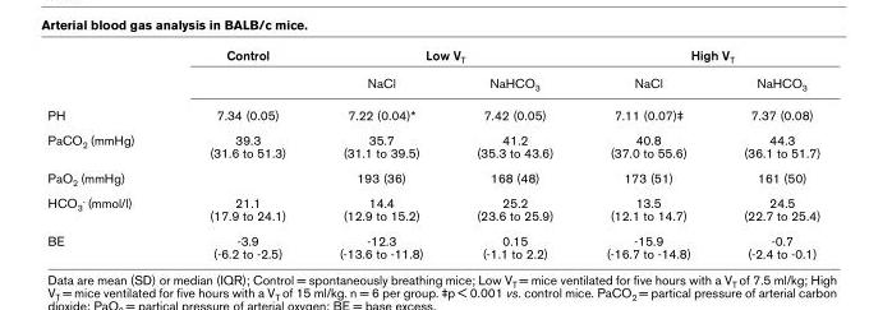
<table><thead><tr><td rowspan="2"></td><td rowspan="2">Control</td><td colspan="2">Low V<sub>T</sub></td><td colspan="2">High V<sub>T</sub></td></tr><tr><td>NaCl</td><td>NaHCO<sub>3</sub></td><td>NaCl</td><td>NaHCO<sub>3</sub></td></tr></thead><tbody><tr><td>PH</td><td>7.34 (0.05)</td><td>7.22 (0.04)*</td><td>7.42 (0.05)</td><td>7.11 (0.07)‡</td><td>7.37 (0.08)</td></tr><tr><td>PaCO<sub>2</sub> (mmHg)</td><td>39.3 (31.6 to 51.3)</td><td>35.7 (31.1 to 39.5)</td><td>41.2 (35.3 to 43.6)</td><td>40.8 (37.0 to 55.6)</td><td>44.3 (36.1 to 51.7)</td></tr><tr><td>PaO<sub>2</sub> (mmHg)</td><td></td><td>193 (36)</td><td>168 (48)</td><td>173 (51)</td><td>161 (50)</td></tr><tr><td>HCO<sub>3</sub><sup>-</sup> (mmol/l)</td><td>21.1 (17.9 to 24.1)</td><td>14.4 (12.9 to 15.2)</td><td>25.2 (23.6 to 25.9)</td><td>13.5 (12.1 to 14.7)</td><td>24.5 (22.7 to 25.4)</td></tr><tr><td>BE</td><td>-3.9 (-6.2 to -2.5)</td><td>-12.3 (-13.6 to -11.8)</td><td>0.15 (-1.1 to 2.2)</td><td>-15.9 (-16.7 to -14.8)</td><td>-0.7 (-2.4 to -0.1)</td></tr></tbody></table>